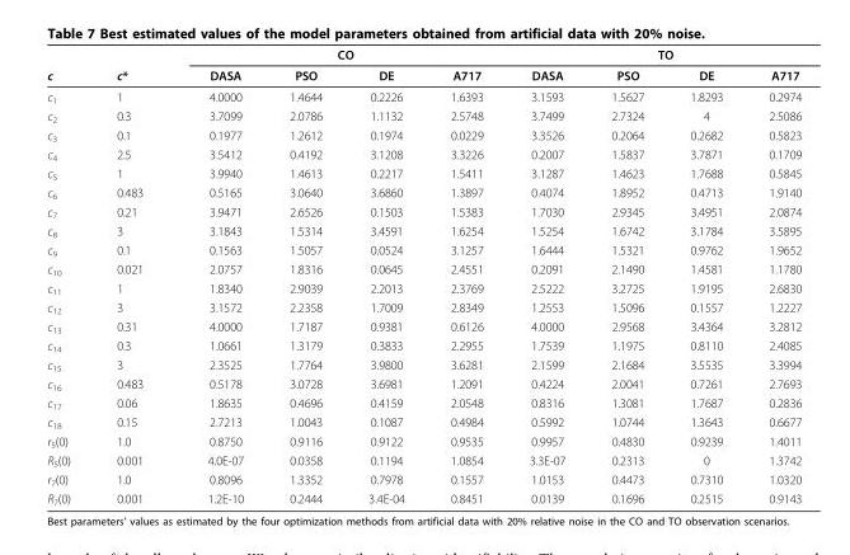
<table><thead><tr><td rowspan="2">c</td><td rowspan="2">c*</td><td colspan="4">CO</td><td colspan="4">TO</td></tr><tr><td>DASA</td><td>PSO</td><td>DE</td><td>A717</td><td>DASA</td><td>PSO</td><td>DE</td><td>A717</td></tr></thead><tbody><tr><td>c<sub>1</sub></td><td>1</td><td>4.0000</td><td>1.4644</td><td>0.2226</td><td>1.6393</td><td>3.1593</td><td>1.5627</td><td>1.8293</td><td>0.2974</td></tr><tr><td>c<sub>2</sub></td><td>0.3</td><td>3.7099</td><td>2.0786</td><td>1.1132</td><td>2.5748</td><td>3.7499</td><td>2.7324</td><td>4</td><td>2.5086</td></tr><tr><td>c<sub>3</sub></td><td>0.1</td><td>0.1977</td><td>1.2612</td><td>0.1974</td><td>0.0229</td><td>3.3526</td><td>0.2064</td><td>0.2682</td><td>0.5823</td></tr><tr><td>c<sub>4</sub></td><td>2.5</td><td>3.5412</td><td>0.4192</td><td>3.1208</td><td>3.3226</td><td>0.2007</td><td>1.5837</td><td>3.7871</td><td>0.1709</td></tr><tr><td>c<sub>5</sub></td><td>1</td><td>3.9940</td><td>1.4613</td><td>0.2217</td><td>1.5411</td><td>3.1287</td><td>1.4623</td><td>1.7688</td><td>0.5845</td></tr><tr><td>c<sub>6</sub></td><td>0.483</td><td>0.5165</td><td>3.0640</td><td>3.6860</td><td>1.3897</td><td>0.4074</td><td>1.8952</td><td>0.4713</td><td>1.9140</td></tr><tr><td>c<sub>7</sub></td><td>0.21</td><td>3.9471</td><td>2.6526</td><td>0.1503</td><td>1.5383</td><td>1.7030</td><td>2.9345</td><td>3.4951</td><td>2.0874</td></tr><tr><td>c<sub>8</sub></td><td>3</td><td>3.1843</td><td>1.5314</td><td>3.4591</td><td>1.6254</td><td>1.5254</td><td>1.6742</td><td>3.1784</td><td>3.5895</td></tr><tr><td>c<sub>9</sub></td><td>0.1</td><td>0.1563</td><td>1.5057</td><td>0.0524</td><td>3.1257</td><td>1.6444</td><td>1.5321</td><td>0.9762</td><td>1.9652</td></tr><tr><td>c<sub>10</sub></td><td>0.021</td><td>2.0757</td><td>1.8316</td><td>0.0645</td><td>2.4551</td><td>0.2091</td><td>2.1490</td><td>1.4581</td><td>1.1780</td></tr><tr><td>c<sub>11</sub></td><td>1</td><td>1.8340</td><td>2.9039</td><td>2.2013</td><td>2.3769</td><td>2.5222</td><td>3.2725</td><td>1.9195</td><td>2.6830</td></tr><tr><td>c<sub>12</sub></td><td>3</td><td>3.1572</td><td>2.2358</td><td>1.7009</td><td>2.8349</td><td>1.2553</td><td>1.5096</td><td>0.1557</td><td>1.2227</td></tr><tr><td>c<sub>13</sub></td><td>0.31</td><td>4.0000</td><td>1.7187</td><td>0.9381</td><td>0.6126</td><td>4.0000</td><td>2.9568</td><td>3.4364</td><td>3.2812</td></tr><tr><td>c<sub>14</sub></td><td>0.3</td><td>1.0661</td><td>1.3179</td><td>0.3833</td><td>2.2955</td><td>1.7539</td><td>1.1975</td><td>0.8110</td><td>2.4085</td></tr><tr><td>c<sub>15</sub></td><td>3</td><td>2.3525</td><td>1.7764</td><td>3.9800</td><td>3.6281</td><td>2.1599</td><td>2.1684</td><td>3.5535</td><td>3.3994</td></tr><tr><td>c<sub>16</sub></td><td>0.483</td><td>0.5178</td><td>3.0728</td><td>3.6981</td><td>1.2091</td><td>0.4224</td><td>2.0041</td><td>0.7261</td><td>2.7693</td></tr><tr><td>c<sub>17</sub></td><td>0.06</td><td>1.8635</td><td>0.4696</td><td>0.4159</td><td>2.0548</td><td>0.8316</td><td>1.3081</td><td>1.7687</td><td>0.2836</td></tr><tr><td>c<sub>18</sub></td><td>0.15</td><td>2.7213</td><td>1.0043</td><td>0.1087</td><td>0.4984</td><td>0.5992</td><td>1.0744</td><td>1.3643</td><td>0.6677</td></tr><tr><td>r<sub>5</sub>(0)</td><td>1.0</td><td>0.8750</td><td>0.9116</td><td>0.9122</td><td>0.9535</td><td>0.9957</td><td>0.4830</td><td>0.9239</td><td>1.4011</td></tr><tr><td>R<sub>5</sub>(0)</td><td>0.001</td><td>4.0E-07</td><td>0.0358</td><td>0.1194</td><td>1.0854</td><td>3.3E-07</td><td>0.2313</td><td>0</td><td>1.3742</td></tr><tr><td>r<sub>7</sub>(0)</td><td>1.0</td><td>0.8096</td><td>1.3352</td><td>0.7978</td><td>0.1557</td><td>1.0153</td><td>0.4473</td><td>0.7310</td><td>1.0320</td></tr><tr><td>R<sub>7</sub>(0)</td><td>0.001</td><td>1.2E-10</td><td>0.2444</td><td>3.4E-04</td><td>0.8451</td><td>0.0139</td><td>0.1696</td><td>0.2515</td><td>0.9143</td></tr></tbody></table>